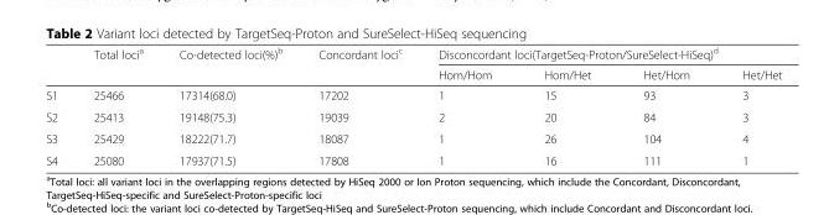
<table><thead><tr><td rowspan="2"></td><td rowspan="2">Total loci<sup>a</sup></td><td rowspan="2">Co-detected loci(%)<sup>b</sup></td><td rowspan="2">Concordant loci<sup>c</sup></td><td colspan="4">Disconcordant loci(TargetSeq-Proton/SureSelect-HiSeq)<sup>d</sup></td></tr><tr><td>Hom/Hom</td><td>Hom/Het</td><td>Het/Hom</td><td>Het/Het</td></tr></thead><tbody><tr><td>S1</td><td>25466</td><td>17314(68.0)</td><td>17202</td><td>1</td><td>15</td><td>93</td><td>3</td></tr><tr><td>S2</td><td>25413</td><td>19148(75.3)</td><td>19039</td><td>2</td><td>20</td><td>84</td><td>3</td></tr><tr><td>S3</td><td>25429</td><td>18222(71.7)</td><td>18087</td><td>1</td><td>26</td><td>104</td><td>4</td></tr><tr><td>S4</td><td>25080</td><td>17937(71.5)</td><td>17808</td><td>1</td><td>16</td><td>111</td><td>1</td></tr></tbody></table>